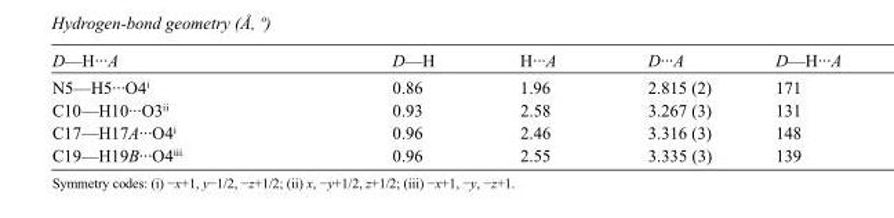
<table><tbody><tr><td>D—H···A</td><td>D—H</td><td>H···A</td><td>D···A</td><td>D—H···A</td></tr><tr><td>N5—H5···O4<sup>i</sup></td><td>0.86</td><td>1.96</td><td>2.815 (2)</td><td>171</td></tr><tr><td>C10—H10···O3<sup>ii</sup></td><td>0.93</td><td>2.58</td><td>3.267 (3)</td><td>131</td></tr><tr><td>C17—H17A···O4<sup>i</sup></td><td>0.96</td><td>2.46</td><td>3.316 (3)</td><td>148</td></tr><tr><td>C19—H19B···O4<sup>iii</sup></td><td>0.96</td><td>2.55</td><td>3.335 (3)</td><td>139</td></tr></tbody></table>